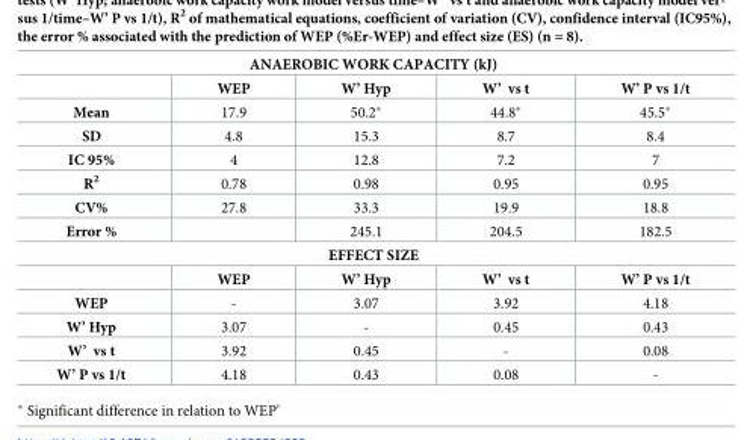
<table><tbody><tr><td colspan="5">ANAEROBIC WORK CAPACITY (kJ)</td></tr><tr><td></td><td>WEP</td><td>W’ Hyp</td><td>W’ vs t</td><td>W’ P vs 1/t</td></tr><tr><td>Mean</td><td>17.9</td><td>50.2*</td><td>44.8*</td><td>45.5*</td></tr><tr><td>SD</td><td>4.8</td><td>15.3</td><td>8.7</td><td>8.4</td></tr><tr><td>IC 95%</td><td>4</td><td>12.8</td><td>7.2</td><td>7</td></tr><tr><td>R<sup>2</sup></td><td>0.78</td><td>0.98</td><td>0.95</td><td>0.95</td></tr><tr><td>CV%</td><td>27.8</td><td>33.3</td><td>19.9</td><td>18.8</td></tr><tr><td>Error %</td><td></td><td>245.1</td><td>204.5</td><td>182.5</td></tr><tr><td colspan="5">EFFECT SIZE</td></tr><tr><td></td><td>WEP</td><td>W’ Hyp</td><td>W’ vs t</td><td>W’ P vs 1/t</td></tr><tr><td>WEP</td><td>-</td><td>3.07</td><td>3.92</td><td>4.18</td></tr><tr><td>W’ Hyp</td><td>3.07</td><td>-</td><td>0.45</td><td>0.43</td></tr><tr><td>W’ vs t</td><td>3.92</td><td>0.45</td><td>-</td><td>0.08</td></tr><tr><td>W’ P vs 1/t</td><td>4.18</td><td>0.43</td><td>0.08</td><td>-</td></tr></tbody></table>